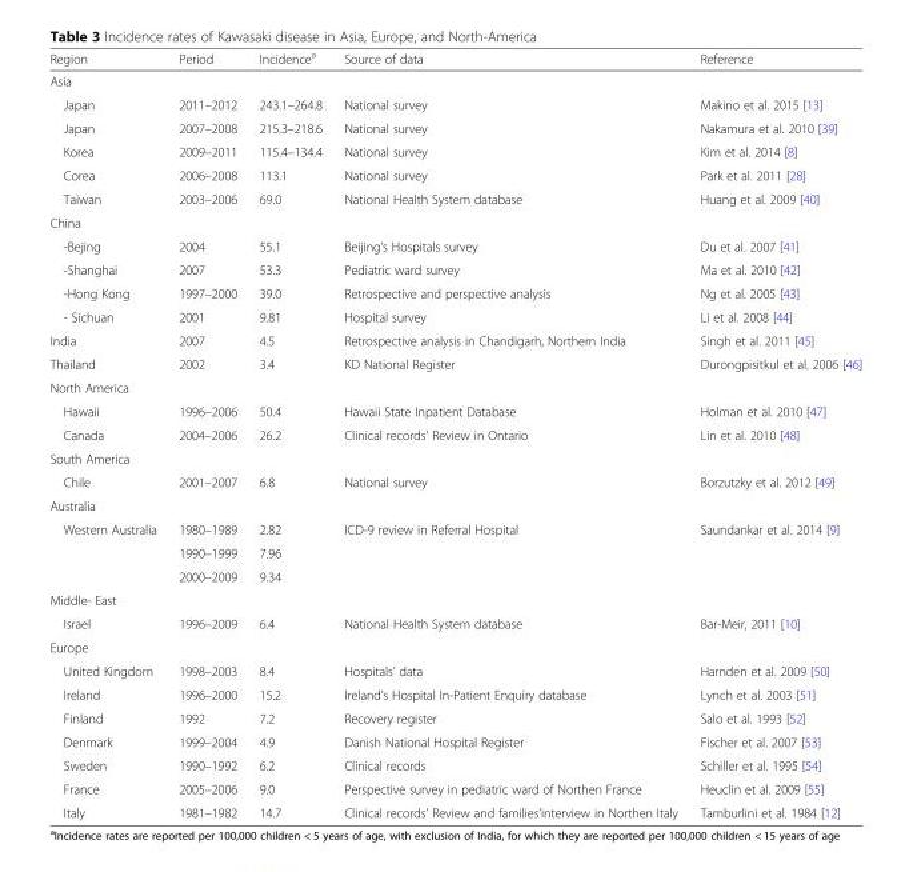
<table><thead><tr><td>Region</td><td>Period</td><td>Incidence<sup>a</sup></td><td>Source of data</td><td>Reference</td></tr></thead><tbody><tr><td colspan="5">Asia</td></tr><tr><td>Japan</td><td>2011–2012</td><td>243.1–264.8</td><td>National survey</td><td>Makino et al. 2015 [13]</td></tr><tr><td>Japan</td><td>2007–2008</td><td>215.3–218.6</td><td>National survey</td><td>Nakamura et al. 2010 [39]</td></tr><tr><td>Korea</td><td>2009–2011</td><td>115.4–134.4</td><td>National survey</td><td>Kim et al. 2014 [8]</td></tr><tr><td>Corea</td><td>2006–2008</td><td>113.1</td><td>National survey</td><td>Park et al. 2011 [28]</td></tr><tr><td>Taiwan</td><td>2003–2006</td><td>69.0</td><td>National Health System database</td><td>Huang et al. 2009 [40]</td></tr><tr><td colspan="5">China</td></tr><tr><td>-Bejing</td><td>2004</td><td>55.1</td><td>Beijing’s Hospitals survey</td><td>Du et al. 2007 [41]</td></tr><tr><td>-Shanghai</td><td>2007</td><td>53.3</td><td>Pediatric ward survey</td><td>Ma et al. 2010 [42]</td></tr><tr><td>-Hong Kong</td><td>1997–2000</td><td>39.0</td><td>Retrospective and perspective analysis</td><td>Ng et al. 2005 [43]</td></tr><tr><td>- Sichuan</td><td>2001</td><td>9.81</td><td>Hospital survey</td><td>Li et al. 2008 [44]</td></tr><tr><td>India</td><td>2007</td><td>4.5</td><td>Retrospective analysis in Chandigarh, Northern India</td><td>Singh et al. 2011 [45]</td></tr><tr><td>Thailand</td><td>2002</td><td>3.4</td><td>KD National Register</td><td>Durongpisitkul et al. 2006 [46]</td></tr><tr><td colspan="5">North America</td></tr><tr><td>Hawaii</td><td>1996–2006</td><td>50.4</td><td>Hawaii State Inpatient Database</td><td>Holman et al. 2010 [47]</td></tr><tr><td>Canada</td><td>2004–2006</td><td>26.2</td><td>Clinical records’ Review in Ontario</td><td>Lin et al. 2010 [48]</td></tr><tr><td colspan="5">South America</td></tr><tr><td>Chile</td><td>2001–2007</td><td>6.8</td><td>National survey</td><td>Borzutzky et al. 2012 [49]</td></tr><tr><td colspan="5">Australia</td></tr><tr><td rowspan="3">Western Australia</td><td>1980–1989</td><td>2.82</td><td rowspan="3">ICD-9 review in Referral Hospital</td><td rowspan="3">Saundankar et al. 2014 [9]</td></tr><tr><td>1990–1999</td><td>7.96</td></tr><tr><td>2000–2009</td><td>9.34</td></tr><tr><td colspan="5">Middle- East</td></tr><tr><td>Israel</td><td>1996–2009</td><td>6.4</td><td>National Health System database</td><td>Bar-Meir, 2011 [10]</td></tr><tr><td colspan="5">Europe</td></tr><tr><td>United Kingdom</td><td>1998–2003</td><td>8.4</td><td>Hospitals’ data</td><td>Harnden et al. 2009 [50]</td></tr><tr><td>Ireland</td><td>1996–2000</td><td>15.2</td><td>Ireland’s Hospital In-Patient Enquiry database</td><td>Lynch et al. 2003 [51]</td></tr><tr><td>Finland</td><td>1992</td><td>7.2</td><td>Recovery register</td><td>Salo et al. 1993 [52]</td></tr><tr><td>Denmark</td><td>1999–2004</td><td>4.9</td><td>Danish National Hospital Register</td><td>Fischer et al. 2007 [53]</td></tr><tr><td>Sweden</td><td>1990–1992</td><td>6.2</td><td>Clinical records</td><td>Schiller et al. 1995 [54]</td></tr><tr><td>France</td><td>2005–2006</td><td>9.0</td><td>Perspective survey in pediatric ward of Northen France</td><td>Heuclin et al. 2009 [55]</td></tr><tr><td>Italy</td><td>1981–1982</td><td>14.7</td><td>Clinical records’ Review and families’interview in Northen Italy</td><td>Tamburlini et al. 1984 [12]</td></tr></tbody></table>